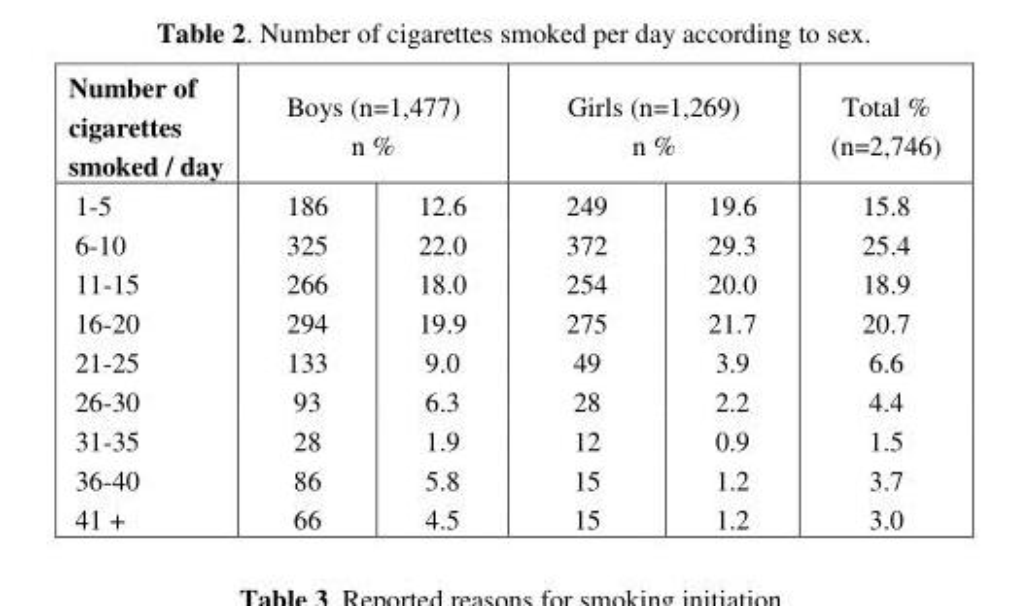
<table><thead><tr><td rowspan="2">Number of cigarettes smoked / day 1-5</td><td colspan="2">Boys (n=1,477) n %</td><td colspan="2">Girls (n=1,269) n %</td><td rowspan="2">Total % (n=2,746) 15.8</td></tr><tr><td>186</td><td>12.6</td><td>249</td><td>19.6</td></tr></thead><tbody><tr><td>6-10</td><td>325</td><td>22.0</td><td>372</td><td>29.3</td><td>25.4</td></tr><tr><td>11-15</td><td>266</td><td>18.0</td><td>254</td><td>20.0</td><td>18.9</td></tr><tr><td>16-20</td><td>294</td><td>19.9</td><td>275</td><td>21.7</td><td>20.7</td></tr><tr><td>21-25</td><td>133</td><td>9.0</td><td>49</td><td>3.9</td><td>6.6</td></tr><tr><td>26-30</td><td>93</td><td>6.3</td><td>28</td><td>2.2</td><td>4.4</td></tr><tr><td>31-35</td><td>28</td><td>1.9</td><td>12</td><td>0.9</td><td>1.5</td></tr><tr><td>36-40</td><td>86</td><td>5.8</td><td>15</td><td>1.2</td><td>3.7</td></tr><tr><td>41 +</td><td>66</td><td>4.5</td><td>15</td><td>1.2</td><td>3.0</td></tr></tbody></table>